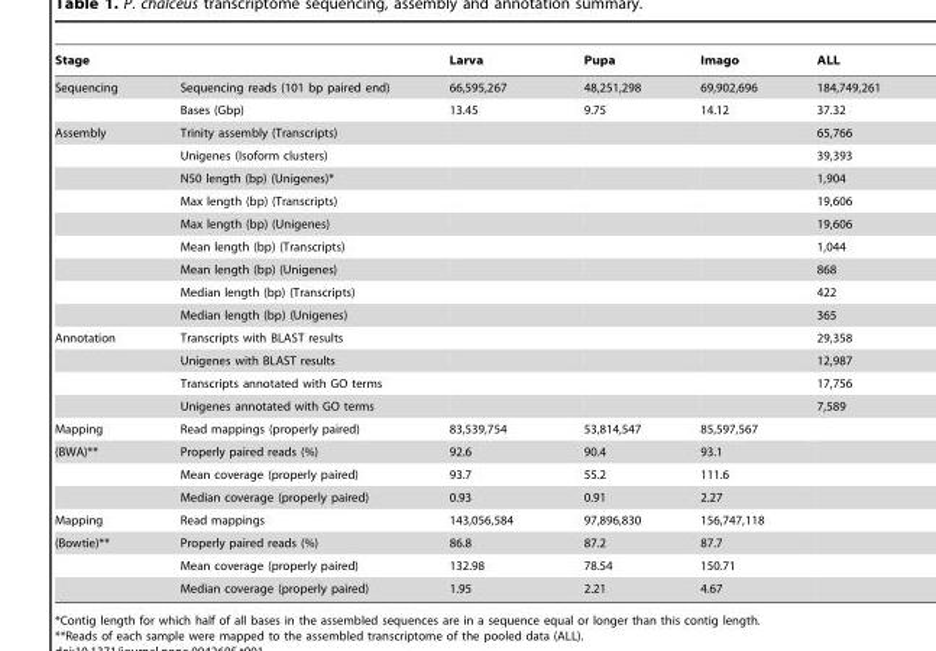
<table><thead><tr><td>Stage</td><td></td><td>Larva</td><td>Pupa</td><td>Imago</td><td>ALL</td></tr></thead><tbody><tr><td rowspan="2">Sequencing</td><td>Sequencing reads (101 bp paired end)</td><td>66,595,267</td><td>48,251,298</td><td>69,902,696</td><td>184,749,261</td></tr><tr><td>Bases (Gbp)</td><td>13.45</td><td>9.75</td><td>14.12</td><td>37.32</td></tr><tr><td rowspan="9">Assembly</td><td>Trinity assembly (Transcripts)</td><td></td><td></td><td></td><td>65,766</td></tr><tr><td>Unigenes (Isoform clusters)</td><td></td><td></td><td></td><td>39,393</td></tr><tr><td>N50 length (bp) (Unigenes)*</td><td></td><td></td><td></td><td>1,904</td></tr><tr><td>Max length (bp) (Transcripts)</td><td></td><td></td><td></td><td>19,606</td></tr><tr><td>Max length (bp) (Unigenes)</td><td></td><td></td><td></td><td>19,606</td></tr><tr><td>Mean length (bp) (Transcripts)</td><td></td><td></td><td></td><td>1,044</td></tr><tr><td>Mean length (bp) (Unigenes)</td><td></td><td></td><td></td><td>868</td></tr><tr><td>Median length (bp) (Transcripts)</td><td></td><td></td><td></td><td>422</td></tr><tr><td>Median length (bp) (Unigenes)</td><td></td><td></td><td></td><td>365</td></tr><tr><td rowspan="4">Annotation</td><td>Transcripts with BLAST results</td><td></td><td></td><td></td><td>29,358</td></tr><tr><td>Unigenes with BLAST results</td><td></td><td></td><td></td><td>12,987</td></tr><tr><td>Transcripts annotated with GO terms</td><td></td><td></td><td></td><td>17,756</td></tr><tr><td>Unigenes annotated with GO terms</td><td></td><td></td><td></td><td>7,589</td></tr><tr><td>Mapping</td><td>Read mappings (properly paired)</td><td>83,539,754</td><td>53,814,547</td><td>85,597,567</td><td></td></tr><tr><td rowspan="3">(BWA)**</td><td>Properly paired reads (%)</td><td>92.6</td><td>90.4</td><td>93.1</td><td></td></tr><tr><td>Mean coverage (properly paired)</td><td>93.7</td><td>55.2</td><td>111.6</td><td></td></tr><tr><td>Median coverage (properly paired)</td><td>0.93</td><td>0.91</td><td>2.27</td><td></td></tr><tr><td>Mapping</td><td>Read mappings</td><td>143,056,584</td><td>97,896,830</td><td>156,747,118</td><td></td></tr><tr><td rowspan="3">(Bowtie)**</td><td>Properly paired reads (%)</td><td>86.8</td><td>87.2</td><td>87.7</td><td></td></tr><tr><td>Mean coverage (properly paired)</td><td>132.98</td><td>78.54</td><td>150.71</td><td></td></tr><tr><td>Median coverage (properly paired)</td><td>1.95</td><td>2.21</td><td>4.67</td><td></td></tr></tbody></table>